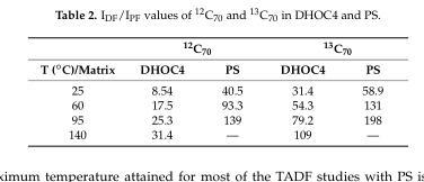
<table><thead><tr><td rowspan="2">T (◦C)/Matrix</td><td colspan="2"><sup>12</sup>C<sub>70</sub></td><td colspan="2"><sup>13</sup>C<sub>70</sub></td></tr><tr><td>DHOC4</td><td>PS</td><td>DHOC4</td><td>PS</td></tr></thead><tbody><tr><td>25</td><td>8.54</td><td>40.5</td><td>31.4</td><td>58.9</td></tr><tr><td>60</td><td>17.5</td><td>93.3</td><td>54.3</td><td>131</td></tr><tr><td>95</td><td>25.3</td><td>139</td><td>79.2</td><td>198</td></tr><tr><td>140</td><td>31.4</td><td>—</td><td>109</td><td>—</td></tr></tbody></table>